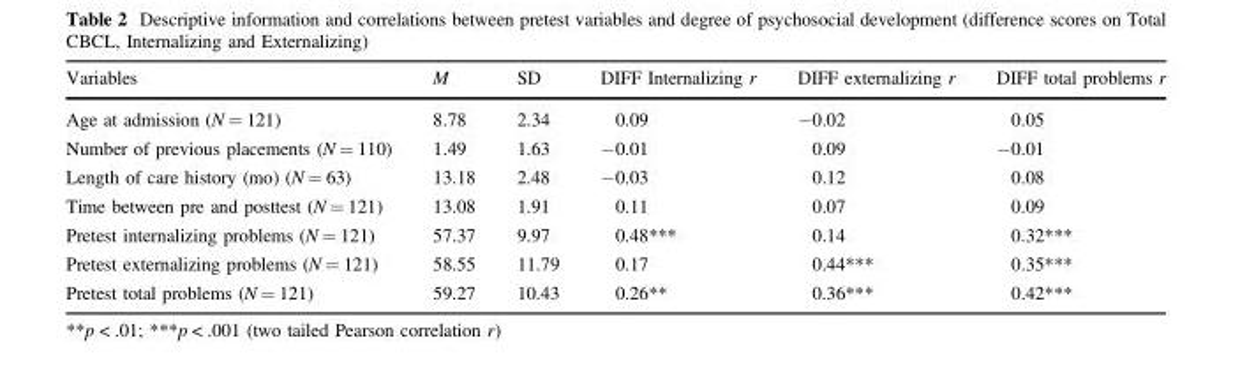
<table><thead><tr><td>Variables</td><td>M</td><td>SD</td><td>DIFF Internalizing r</td><td>DIFF externalizing r</td><td>DIFF total problems r</td></tr></thead><tbody><tr><td>Age at admission (N = 121)</td><td>8.78</td><td>2.34</td><td>0.09</td><td>−0.02</td><td>0.05</td></tr><tr><td>Number of previous placements (N = 110)</td><td>1.49</td><td>1.63</td><td>−0.01</td><td>0.09</td><td>−0.01</td></tr><tr><td>Length of care history (mo) (N = 63)</td><td>13.18</td><td>2.48</td><td>−0.03</td><td>0.12</td><td>0.08</td></tr><tr><td>Time between pre and posttest (N = 121)</td><td>13.08</td><td>1.91</td><td>0.11</td><td>0.07</td><td>0.09</td></tr><tr><td>Pretest internalizing problems (N = 121)</td><td>57.37</td><td>9.97</td><td>0.48***</td><td>0.14</td><td>0.32***</td></tr><tr><td>Pretest externalizing problems (N = 121)</td><td>58.55</td><td>11.79</td><td>0.17</td><td>0.44***</td><td>0.35***</td></tr><tr><td>Pretest total problems (N = 121)</td><td>59.27</td><td>10.43</td><td>0.26**</td><td>0.36***</td><td>0.42***</td></tr></tbody></table>